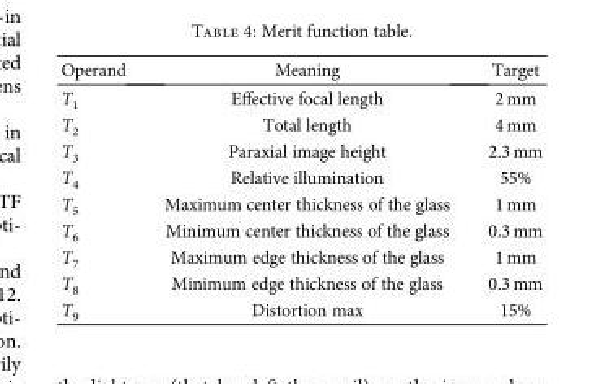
<table><thead><tr><td>Operand</td><td>Meaning</td><td>Target</td></tr></thead><tbody><tr><td>T<sub>1</sub></td><td>Effective focal length</td><td>2 mm</td></tr><tr><td>T<sub>2</sub></td><td>Total length</td><td>4 mm</td></tr><tr><td>T<sub>3</sub></td><td>Paraxial image height</td><td>2.3 mm</td></tr><tr><td>T<sub>4</sub></td><td>Relative illumination</td><td>55%</td></tr><tr><td>T<sub>5</sub></td><td>Maximum center thickness of the glass</td><td>1 mm</td></tr><tr><td>T<sub>6</sub></td><td>Minimum center thickness of the glass</td><td>0.3 mm</td></tr><tr><td>T<sub>7</sub></td><td>Maximum edge thickness of the glass</td><td>1 mm</td></tr><tr><td>T<sub>8</sub></td><td>Minimum edge thickness of the glass</td><td>0.3 mm</td></tr><tr><td>T<sub>9</sub></td><td>Distortion max</td><td>15%</td></tr></tbody></table>